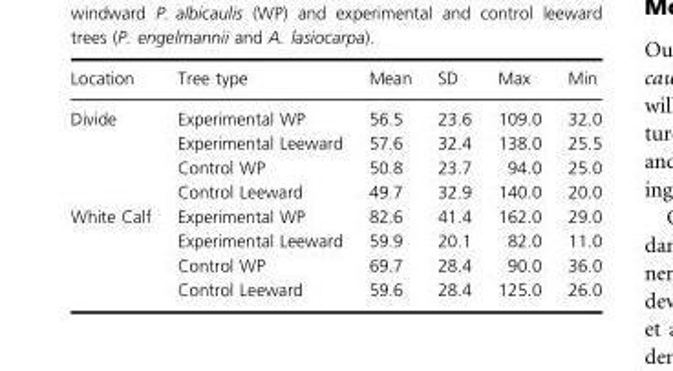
<table><thead><tr><td>Location</td><td>Tree type</td><td>Mean</td><td>SD</td><td>Max</td><td>Min</td></tr></thead><tbody><tr><td rowspan="4">Divide</td><td>Experimental WP</td><td>56.5</td><td>23.6</td><td>109.0</td><td>32.0</td></tr><tr><td>Experimental Leeward</td><td>57.6</td><td>32.4</td><td>138.0</td><td>25.5</td></tr><tr><td>Control WP</td><td>50.8</td><td>23.7</td><td>94.0</td><td>25.0</td></tr><tr><td>Control Leeward</td><td>49.7</td><td>32.9</td><td>140.0</td><td>20.0</td></tr><tr><td rowspan="4">White Calf</td><td>Experimental WP</td><td>82.6</td><td>41.4</td><td>162.0</td><td>29.0</td></tr><tr><td>Experimental Leeward</td><td>59.9</td><td>20.1</td><td>82.0</td><td>11.0</td></tr><tr><td>Control WP</td><td>69.7</td><td>28.4</td><td>90.0</td><td>36.0</td></tr><tr><td>Control Leeward</td><td>59.6</td><td>28.4</td><td>125.0</td><td>26.0</td></tr></tbody></table>